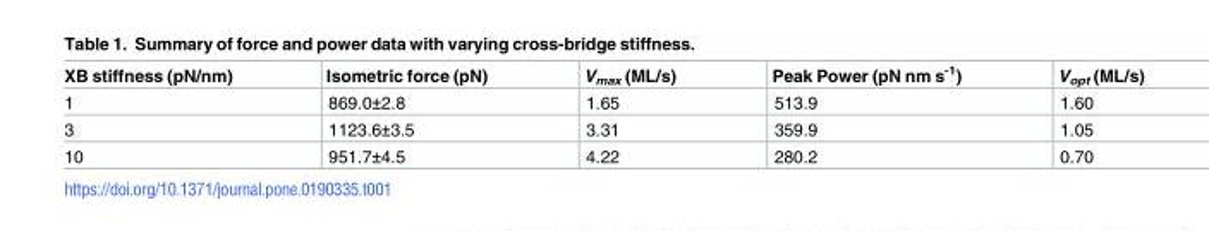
<table><thead><tr><td>XB stiffness (pN/nm)</td><td>Isometric force (pN)</td><td>V<sub>max</sub> (ML/s)</td><td>Peak Power (pN nm s<sup>-1</sup>)</td><td>V<sub>opt</sub> (ML/s)</td></tr></thead><tbody><tr><td>1</td><td>869.0±2.8</td><td>1.65</td><td>513.9</td><td>1.60</td></tr><tr><td>3</td><td>1123.6±3.5</td><td>3.31</td><td>359.9</td><td>1.05</td></tr><tr><td>10</td><td>951.7±4.5</td><td>4.22</td><td>280.2</td><td>0.70</td></tr></tbody></table>